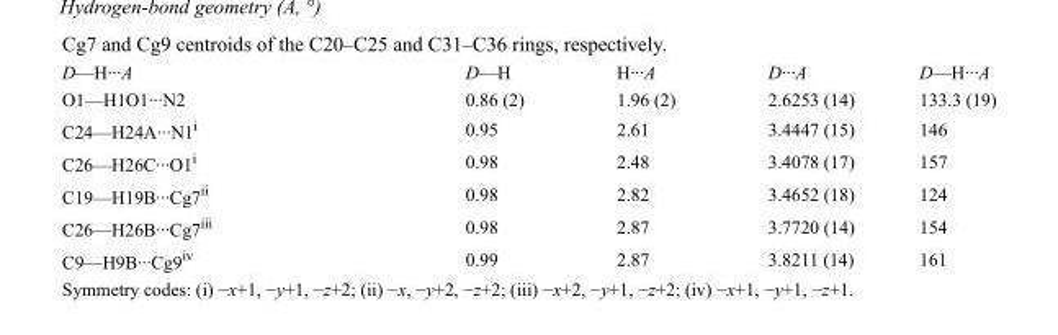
<table><tbody><tr><td>D—H···A</td><td>D—H</td><td>H···A</td><td>D···A</td><td>D—H···A</td></tr><tr><td>O1—H1O1···N2</td><td>0.86 (2)</td><td>1.96 (2)</td><td>2.6253 (14)</td><td>133.3 (19)</td></tr><tr><td>C24—H24A···N1<sup>i</sup></td><td>0.95</td><td>2.61</td><td>3.4447 (15)</td><td>146</td></tr><tr><td>C26—H26C···O1<sup>i</sup></td><td>0.98</td><td>2.48</td><td>3.4078 (17)</td><td>157</td></tr><tr><td>C19—H19B···Cg7<sup>ii</sup></td><td>0.98</td><td>2.82</td><td>3.4652 (18)</td><td>124</td></tr><tr><td>C26—H26B···Cg7<sup>iii</sup></td><td>0.98</td><td>2.87</td><td>3.7720 (14)</td><td>154</td></tr><tr><td>C9—H9B···Cg9<sup>iv</sup></td><td>0.99</td><td>2.87</td><td>3.8211 (14)</td><td>161</td></tr></tbody></table>